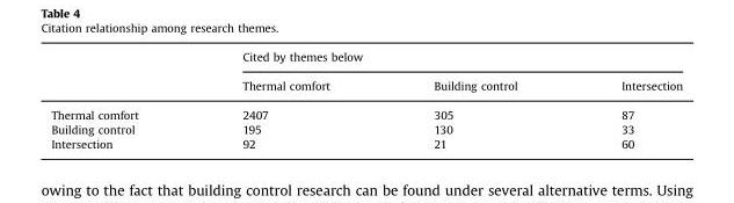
<table><thead><tr><td rowspan="2"></td><td colspan="3">Cited by themes below</td></tr><tr><td>Thermal comfort</td><td>Building control</td><td>Intersection</td></tr></thead><tbody><tr><td>Thermal comfort</td><td>2407</td><td>305</td><td>87</td></tr><tr><td>Building control</td><td>195</td><td>130</td><td>33</td></tr><tr><td>Intersection</td><td>92</td><td>21</td><td>60</td></tr></tbody></table>